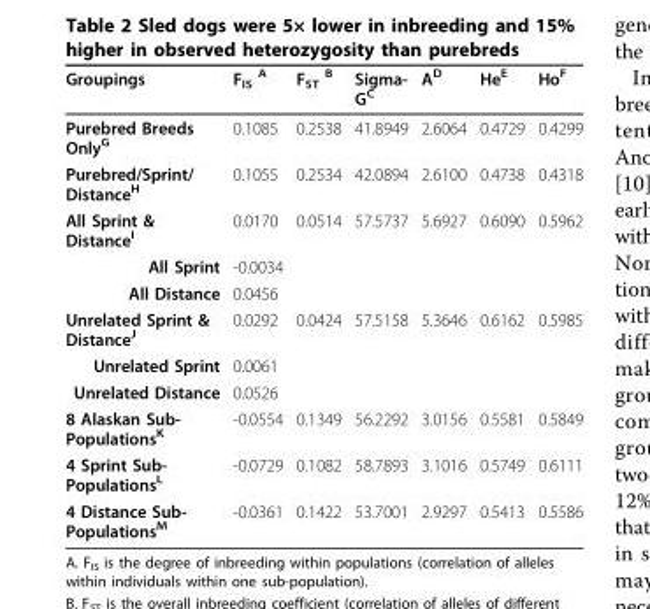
<table><thead><tr><td>Groupings</td><td>F<sub>IS</sub> <sup>A</sup></td><td>F<sub>ST</sub> <sup>B</sup></td><td>Sigma- G<sup>C</sup></td><td>A<sup>D</sup></td><td>He<sup>E</sup></td><td>Ho<sup>F</sup></td></tr></thead><tbody><tr><td>Purebred Breeds Only<sup>G</sup></td><td>0.1085</td><td>0.2538</td><td>41.8949</td><td>2.6064</td><td>0.4729</td><td>0.4299</td></tr><tr><td>Purebred/Sprint/ Distance<sup>H</sup></td><td>0.1055</td><td>0.2534</td><td>42.0894</td><td>2.6100</td><td>0.4738</td><td>0.4318</td></tr><tr><td>All Sprint &amp; Distance<sup>I</sup></td><td>0.0170</td><td>0.0514</td><td>57.5737</td><td>5.6927</td><td>0.6090</td><td>0.5962</td></tr><tr><td>All Sprint</td><td>-0.0034</td><td></td><td></td><td></td><td></td><td></td></tr><tr><td>All Distance</td><td>0.0456</td><td></td><td></td><td></td><td></td><td></td></tr><tr><td>Unrelated Sprint &amp; Distance<sup>J</sup></td><td>0.0292</td><td>0.0424</td><td>57.5158</td><td>5.3646</td><td>0.6162</td><td>0.5985</td></tr><tr><td>Unrelated Sprint</td><td>0.0061</td><td></td><td></td><td></td><td></td><td></td></tr><tr><td>Unrelated Distance</td><td>0.0526</td><td></td><td></td><td></td><td></td><td></td></tr><tr><td>8 Alaskan Sub- Populations<sup>K</sup></td><td>-0.0554</td><td>0.1349</td><td>56.2292</td><td>3.0156</td><td>0.5581</td><td>0.5849</td></tr><tr><td>4 Sprint Sub- Populations<sup>L</sup></td><td>-0.0729</td><td>0.1082</td><td>58.7893</td><td>3.1016</td><td>0.5749</td><td>0.6111</td></tr><tr><td>4 Distance Sub- Populations<sup>M</sup></td><td>-0.0361</td><td>0.1422</td><td>53.7001</td><td>2.9297</td><td>0.5413</td><td>0.5586</td></tr></tbody></table>